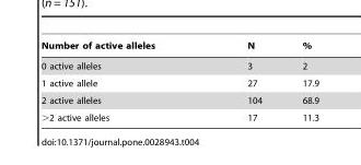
<table><thead><tr><td>Number of active alleles</td><td>N</td><td>%</td></tr></thead><tbody><tr><td>0 active alleles</td><td>3</td><td>2</td></tr><tr><td>1 active allele</td><td>27</td><td>17.9</td></tr><tr><td>2 active alleles</td><td>104</td><td>68.9</td></tr><tr><td>&gt;2 active alleles</td><td>17</td><td>11.3</td></tr></tbody></table>